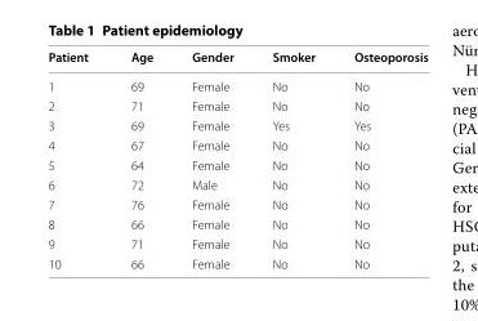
<table><thead><tr><td>Patient</td><td>Age</td><td>Gender</td><td>Smoker</td><td>Osteoporosis</td></tr></thead><tbody><tr><td>1</td><td>69</td><td>Female</td><td>No</td><td>No</td></tr><tr><td>2</td><td>71</td><td>Female</td><td>No</td><td>No</td></tr><tr><td>3</td><td>69</td><td>Female</td><td>Yes</td><td>Yes</td></tr><tr><td>4</td><td>67</td><td>Female</td><td>No</td><td>No</td></tr><tr><td>5</td><td>64</td><td>Female</td><td>No</td><td>No</td></tr><tr><td>6</td><td>72</td><td>Male</td><td>No</td><td>No</td></tr><tr><td>7</td><td>76</td><td>Female</td><td>No</td><td>No</td></tr><tr><td>8</td><td>66</td><td>Female</td><td>No</td><td>No</td></tr><tr><td>9</td><td>71</td><td>Female</td><td>No</td><td>No</td></tr><tr><td>10</td><td>66</td><td>Female</td><td>No</td><td>No</td></tr></tbody></table>